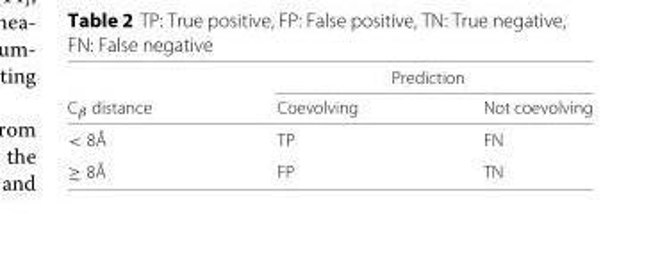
<table><thead><tr><td rowspan="2">C<sub>β</sub> distance</td><td colspan="2">Prediction</td></tr><tr><td>Coevolving</td><td>Not coevolving</td></tr></thead><tbody><tr><td>&lt; 8Å</td><td>TP</td><td>FN</td></tr><tr><td>≥ 8Å</td><td>FP</td><td>TN</td></tr></tbody></table>